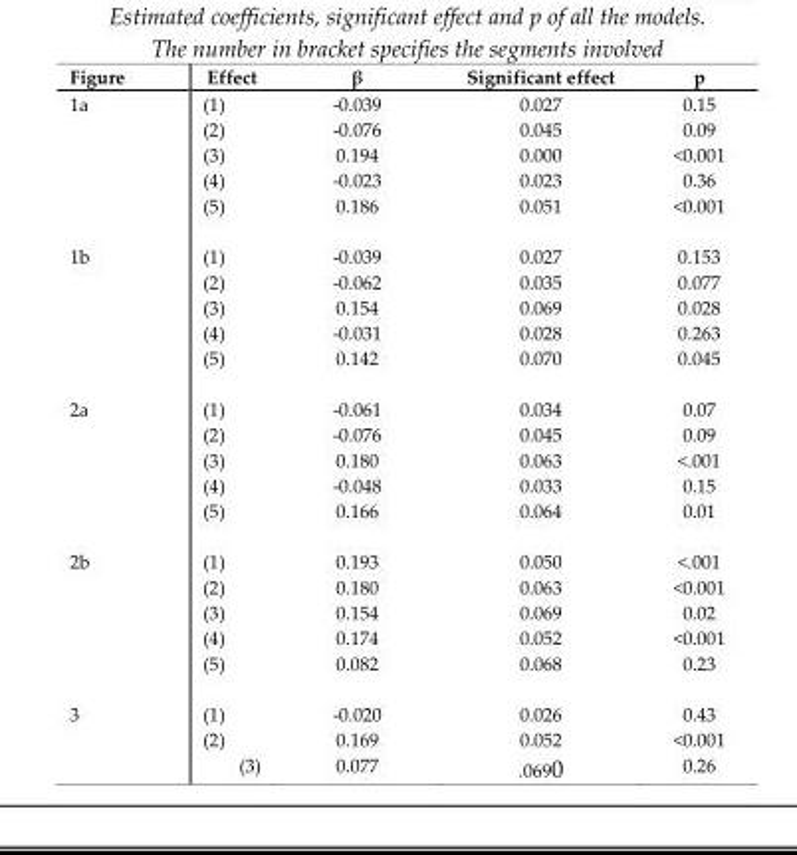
<table><thead><tr><td>Figure</td><td>Effect</td><td>β</td><td>Significant effect</td><td>p</td></tr></thead><tbody><tr><td rowspan="5">1a</td><td>(1)</td><td>-0.039</td><td>0.027</td><td>0.15</td></tr><tr><td>(2)</td><td>-0.076</td><td>0.045</td><td>0.09</td></tr><tr><td>(3)</td><td>0.194</td><td>0.000</td><td>&lt;0.001</td></tr><tr><td>(4)</td><td>-0.023</td><td>0.023</td><td>0.36</td></tr><tr><td>(5)</td><td>0.186</td><td>0.051</td><td>&lt;0.001</td></tr><tr><td rowspan="5">1b</td><td>(1)</td><td>-0.039</td><td>0.027</td><td>0.153</td></tr><tr><td>(2)</td><td>-0.062</td><td>0.035</td><td>0.077</td></tr><tr><td>(3)</td><td>0.154</td><td>0.069</td><td>0.028</td></tr><tr><td>(4)</td><td>-0.031</td><td>0.028</td><td>0.263</td></tr><tr><td>(5)</td><td>0.142</td><td>0.070</td><td>0.045</td></tr><tr><td rowspan="5">2a</td><td>(1)</td><td>-0.061</td><td>0.034</td><td>0.07</td></tr><tr><td>(2)</td><td>-0.076</td><td>0.045</td><td>0.09</td></tr><tr><td>(3)</td><td>0.180</td><td>0.063</td><td>&lt;.001</td></tr><tr><td>(4)</td><td>-0.048</td><td>0.033</td><td>0.15</td></tr><tr><td>(5)</td><td>0.166</td><td>0.064</td><td>0.01</td></tr><tr><td rowspan="5">2b</td><td>(1)</td><td>0.193</td><td>0.050</td><td>&lt;.001</td></tr><tr><td>(2)</td><td>0.180</td><td>0.063</td><td>&lt;0.001</td></tr><tr><td>(3)</td><td>0.154</td><td>0.069</td><td>0.02</td></tr><tr><td>(4)</td><td>0.174</td><td>0.052</td><td>&lt;0.001</td></tr><tr><td>(5)</td><td>0.082</td><td>0.068</td><td>0.23</td></tr><tr><td rowspan="3">3</td><td>(1)</td><td>-0.020</td><td>0.026</td><td>0.43</td></tr><tr><td>(2)</td><td>0.169</td><td>0.052</td><td>&lt;0.001</td></tr><tr><td>(3)</td><td>0.077</td><td>.0690</td><td>0.26</td></tr></tbody></table>